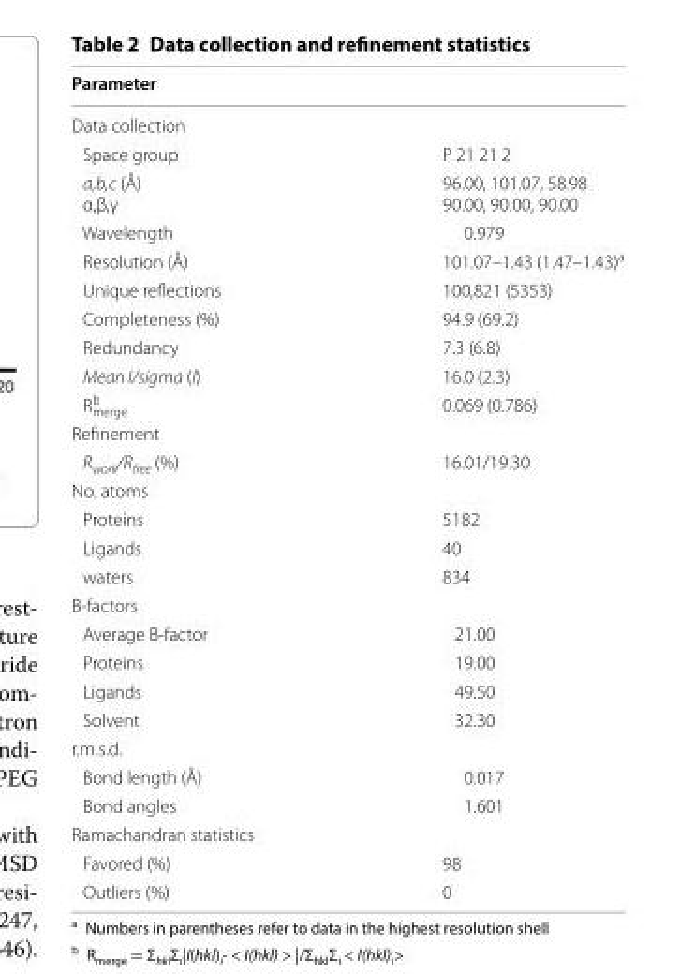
<table><thead><tr><td>Parameter</td><td></td></tr></thead><tbody><tr><td colspan="2">Data collection</td></tr><tr><td>Space group</td><td>P 21 21 2</td></tr><tr><td>a,b,c (Å) α,β,γ</td><td>96.00, 101.07, 58.98 90.00, 90.00, 90.00</td></tr><tr><td>Wavelength</td><td>0.979</td></tr><tr><td>Resolution (Å)</td><td>101.07–1.43 (1.47–1.43)<sup>a</sup></td></tr><tr><td>Unique reflections</td><td>100,821 (5353)</td></tr><tr><td>Completeness (%)</td><td>94.9 (69.2)</td></tr><tr><td>Redundancy</td><td>7.3 (6.8)</td></tr><tr><td>Mean I/sigma (I)</td><td>16.0 (2.3)</td></tr><tr><td>Rb merge</td><td>0.069 (0.786)</td></tr><tr><td colspan="2">Refinement</td></tr><tr><td>R<sub>work</sub>/R<sub>free</sub> (%)</td><td>16.01/19.30</td></tr><tr><td colspan="2">No. atoms</td></tr><tr><td>Proteins</td><td>5182</td></tr><tr><td>Ligands</td><td>40</td></tr><tr><td>waters</td><td>834</td></tr><tr><td colspan="2">B‑factors</td></tr><tr><td>Average B‑factor</td><td>21.00</td></tr><tr><td>Proteins</td><td>19.00</td></tr><tr><td>Ligands</td><td>49.50</td></tr><tr><td>Solvent</td><td>32.30</td></tr><tr><td colspan="2">r.m.s.d.</td></tr><tr><td>Bond length (Å)</td><td>0.017</td></tr><tr><td>Bond angles</td><td>1.601</td></tr><tr><td colspan="2">Ramachandran statistics</td></tr><tr><td>Favored (%)</td><td>98</td></tr><tr><td>Outliers (%)</td><td>0</td></tr></tbody></table>